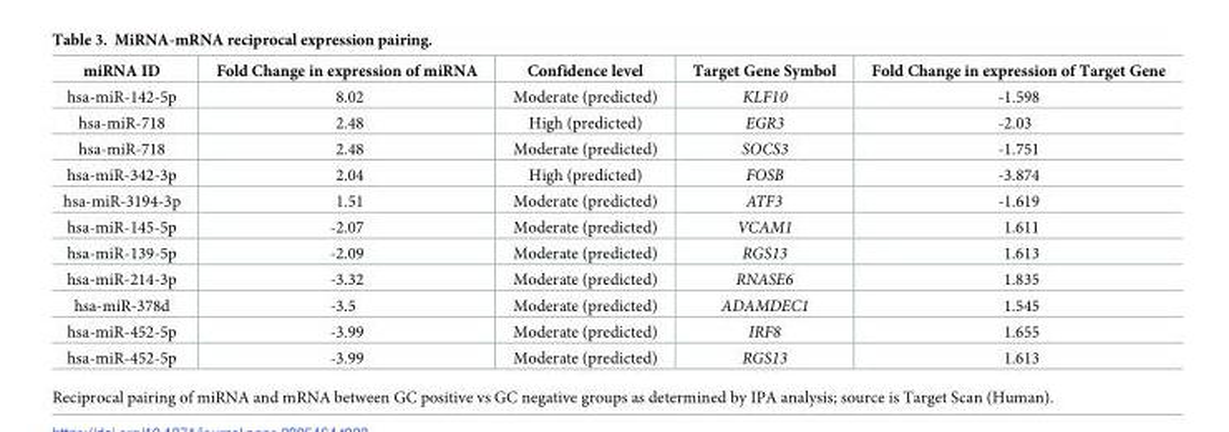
<table><thead><tr><td>miRNA ID</td><td>Fold Change in expression of miRNA</td><td>Confidence level</td><td>Target Gene Symbol</td><td>Fold Change in expression of Target Gene</td></tr></thead><tbody><tr><td>hsa-miR-142-5p</td><td>8.02</td><td>Moderate (predicted)</td><td>KLF10</td><td>-1.598</td></tr><tr><td>hsa-miR-718</td><td>2.48</td><td>High (predicted)</td><td>EGR3</td><td>-2.03</td></tr><tr><td>hsa-miR-718</td><td>2.48</td><td>Moderate (predicted)</td><td>SOCS3</td><td>-1.751</td></tr><tr><td>hsa-miR-342-3p</td><td>2.04</td><td>High (predicted)</td><td>FOSB</td><td>-3.874</td></tr><tr><td>hsa-miR-3194-3p</td><td>1.51</td><td>Moderate (predicted)</td><td>ATF3</td><td>-1.619</td></tr><tr><td>hsa-miR-145-5p</td><td>-2.07</td><td>Moderate (predicted)</td><td>VCAM1</td><td>1.611</td></tr><tr><td>hsa-miR-139-5p</td><td>-2.09</td><td>Moderate (predicted)</td><td>RGS13</td><td>1.613</td></tr><tr><td>hsa-miR-214-3p</td><td>-3.32</td><td>Moderate (predicted)</td><td>RNASE6</td><td>1.835</td></tr><tr><td>hsa-miR-378d</td><td>-3.5</td><td>Moderate (predicted)</td><td>ADAMDEC1</td><td>1.545</td></tr><tr><td>hsa-miR-452-5p</td><td>-3.99</td><td>Moderate (predicted)</td><td>IRF8</td><td>1.655</td></tr><tr><td>hsa-miR-452-5p</td><td>-3.99</td><td>Moderate (predicted)</td><td>RGS13</td><td>1.613</td></tr></tbody></table>